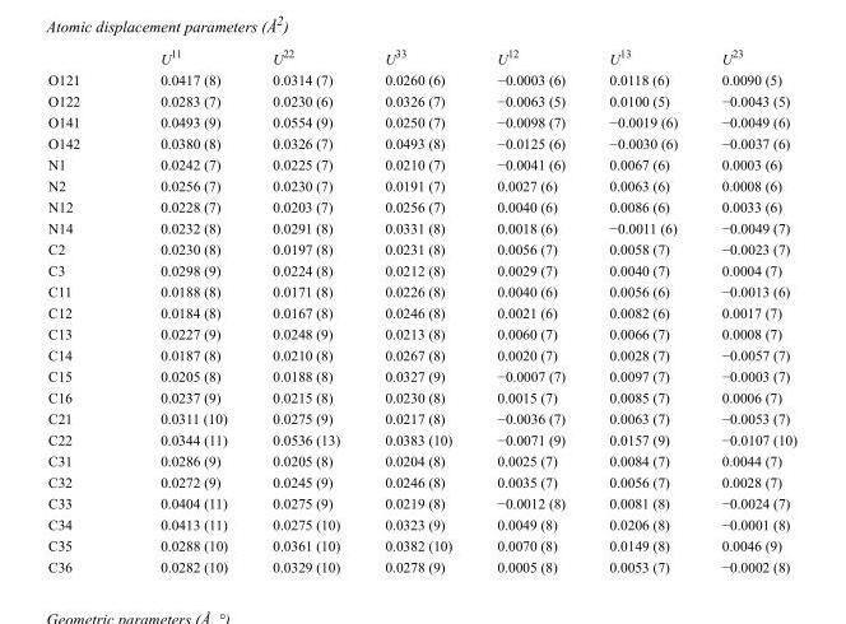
<table><thead><tr><td></td><td>U<sup>11</sup></td><td>U<sup>22</sup></td><td>U<sup>33</sup></td><td>U<sup>12</sup></td><td>U<sup>13</sup></td><td>U<sup>23</sup></td></tr></thead><tbody><tr><td>O121</td><td>0.0417 (8)</td><td>0.0314 (7)</td><td>0.0260 (6)</td><td>−0.0003 (6)</td><td>0.0118 (6)</td><td>0.0090 (5)</td></tr><tr><td>O122</td><td>0.0283 (7)</td><td>0.0230 (6)</td><td>0.0326 (7)</td><td>−0.0063 (5)</td><td>0.0100 (5)</td><td>−0.0043 (5)</td></tr><tr><td>O141</td><td>0.0493 (9)</td><td>0.0554 (9)</td><td>0.0250 (7)</td><td>−0.0098 (7)</td><td>−0.0019 (6)</td><td>−0.0049 (6)</td></tr><tr><td>O142</td><td>0.0380 (8)</td><td>0.0326 (7)</td><td>0.0493 (8)</td><td>−0.0125 (6)</td><td>−0.0030 (6)</td><td>−0.0037 (6)</td></tr><tr><td>N1</td><td>0.0242 (7)</td><td>0.0225 (7)</td><td>0.0210 (7)</td><td>−0.0041 (6)</td><td>0.0067 (6)</td><td>0.0003 (6)</td></tr><tr><td>N2</td><td>0.0256 (7)</td><td>0.0230 (7)</td><td>0.0191 (7)</td><td>0.0027 (6)</td><td>0.0063 (6)</td><td>0.0008 (6)</td></tr><tr><td>N12</td><td>0.0228 (7)</td><td>0.0203 (7)</td><td>0.0256 (7)</td><td>0.0040 (6)</td><td>0.0086 (6)</td><td>0.0033 (6)</td></tr><tr><td>N14</td><td>0.0232 (8)</td><td>0.0291 (8)</td><td>0.0331 (8)</td><td>0.0018 (6)</td><td>−0.0011 (6)</td><td>−0.0049 (7)</td></tr><tr><td>C2</td><td>0.0230 (8)</td><td>0.0197 (8)</td><td>0.0231 (8)</td><td>0.0056 (7)</td><td>0.0058 (7)</td><td>−0.0023 (7)</td></tr><tr><td>C3</td><td>0.0298 (9)</td><td>0.0224 (8)</td><td>0.0212 (8)</td><td>0.0029 (7)</td><td>0.0040 (7)</td><td>0.0004 (7)</td></tr><tr><td>C11</td><td>0.0188 (8)</td><td>0.0171 (8)</td><td>0.0226 (8)</td><td>0.0040 (6)</td><td>0.0056 (6)</td><td>−0.0013 (6)</td></tr><tr><td>C12</td><td>0.0184 (8)</td><td>0.0167 (8)</td><td>0.0246 (8)</td><td>0.0021 (6)</td><td>0.0082 (6)</td><td>0.0017 (7)</td></tr><tr><td>C13</td><td>0.0227 (9)</td><td>0.0248 (9)</td><td>0.0213 (8)</td><td>0.0060 (7)</td><td>0.0066 (7)</td><td>0.0008 (7)</td></tr><tr><td>C14</td><td>0.0187 (8)</td><td>0.0210 (8)</td><td>0.0267 (8)</td><td>0.0020 (7)</td><td>0.0028 (7)</td><td>−0.0057 (7)</td></tr><tr><td>C15</td><td>0.0205 (8)</td><td>0.0188 (8)</td><td>0.0327 (9)</td><td>−0.0007 (7)</td><td>0.0097 (7)</td><td>−0.0003 (7)</td></tr><tr><td>C16</td><td>0.0237 (9)</td><td>0.0215 (8)</td><td>0.0230 (8)</td><td>0.0015 (7)</td><td>0.0085 (7)</td><td>0.0006 (7)</td></tr><tr><td>C21</td><td>0.0311 (10)</td><td>0.0275 (9)</td><td>0.0217 (8)</td><td>−0.0036 (7)</td><td>0.0063 (7)</td><td>−0.0053 (7)</td></tr><tr><td>C22</td><td>0.0344 (11)</td><td>0.0536 (13)</td><td>0.0383 (10)</td><td>−0.0071 (9)</td><td>0.0157 (9)</td><td>−0.0107 (10)</td></tr><tr><td>C31</td><td>0.0286 (9)</td><td>0.0205 (8)</td><td>0.0204 (8)</td><td>0.0025 (7)</td><td>0.0084 (7)</td><td>0.0044 (7)</td></tr><tr><td>C32</td><td>0.0272 (9)</td><td>0.0245 (9)</td><td>0.0246 (8)</td><td>0.0035 (7)</td><td>0.0056 (7)</td><td>0.0028 (7)</td></tr><tr><td>C33</td><td>0.0404 (11)</td><td>0.0275 (9)</td><td>0.0219 (8)</td><td>−0.0012 (8)</td><td>0.0081 (8)</td><td>−0.0024 (7)</td></tr><tr><td>C34</td><td>0.0413 (11)</td><td>0.0275 (10)</td><td>0.0323 (9)</td><td>0.0049 (8)</td><td>0.0206 (8)</td><td>−0.0001 (8)</td></tr><tr><td>C35</td><td>0.0288 (10)</td><td>0.0361 (10)</td><td>0.0382 (10)</td><td>0.0070 (8)</td><td>0.0149 (8)</td><td>0.0046 (9)</td></tr><tr><td>C36</td><td>0.0282 (10)</td><td>0.0329 (10)</td><td>0.0278 (9)</td><td>0.0005 (8)</td><td>0.0053 (7)</td><td>−0.0002 (8)</td></tr></tbody></table>